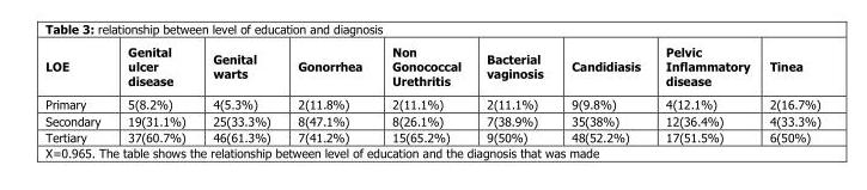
<table><thead><tr><td>LOE</td><td>Genital ulcer disease</td><td>Genital warts</td><td>Gonorrhea</td><td>Non Gonococcal Urethritis</td><td>Bacterial vaginosis</td><td>Candidiasis</td><td>Pelvic Inflammatory disease</td><td>Tinea</td></tr></thead><tbody><tr><td>Primary</td><td>5(8.2%)</td><td>4(5.3%)</td><td>2(11.8%)</td><td>2(11.1%)</td><td>2(11.1%)</td><td>9(9.8%)</td><td>4(12.1%)</td><td>2(16.7%)</td></tr><tr><td>Secondary</td><td>19(31.1%)</td><td>25(33.3%)</td><td>8(47.1%)</td><td>8(26.1%)</td><td>7(38.9%)</td><td>35(38%)</td><td>12(36.4%)</td><td>4(33.3%)</td></tr><tr><td>Tertiary</td><td>37(60.7%)</td><td>46(61.3%)</td><td>7(41.2%)</td><td>15(65.2%)</td><td>9(50%)</td><td>48(52.2%)</td><td>17(51.5%)</td><td>6(50%)</td></tr></tbody></table>